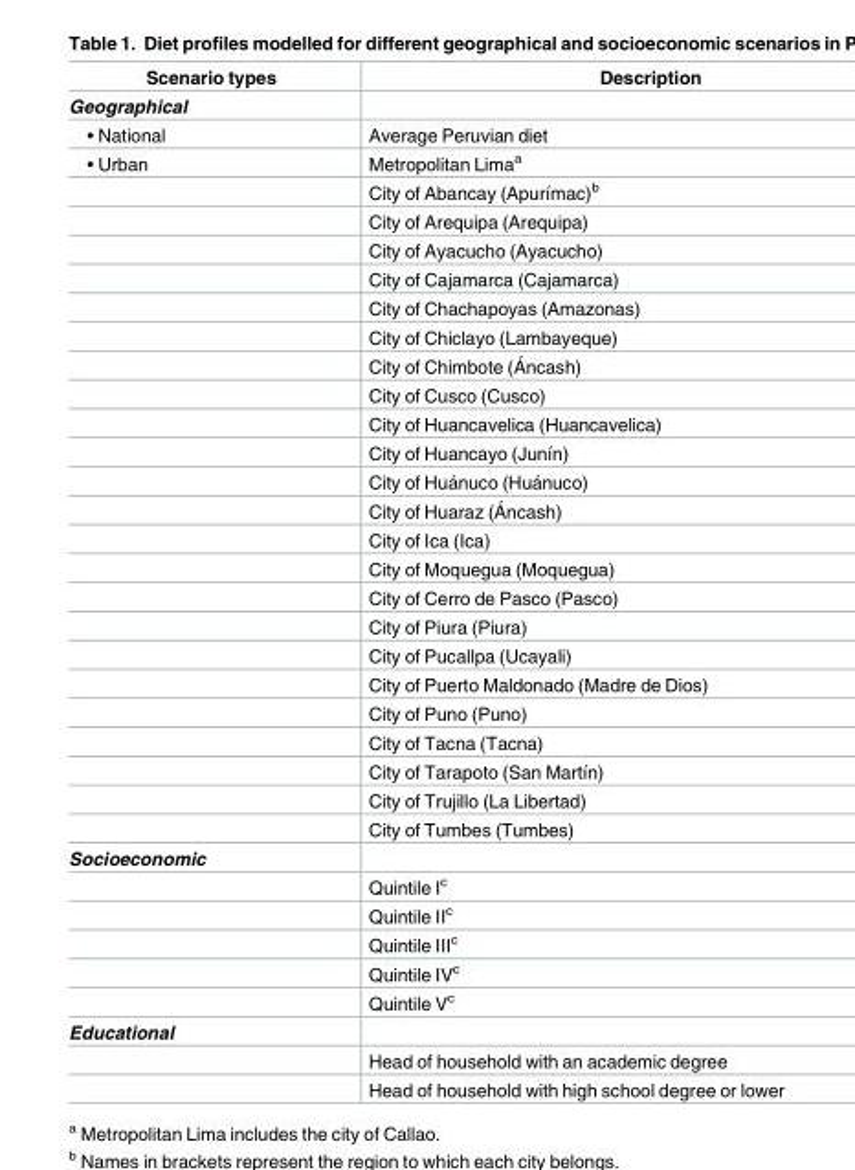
<table><thead><tr><td>Scenario types</td><td>Description</td></tr></thead><tbody><tr><td colspan="2">Geographical</td></tr><tr><td>• National</td><td>Average Peruvian diet</td></tr><tr><td rowspan="24">• Urban</td><td>Metropolitan Lima<sup>a</sup></td></tr><tr><td>City of Abancay (Apurı´mac)b</td></tr><tr><td>City of Arequipa (Arequipa)</td></tr><tr><td>City of Ayacucho (Ayacucho)</td></tr><tr><td>City of Cajamarca (Cajamarca)</td></tr><tr><td>City of Chachapoyas (Amazonas)</td></tr><tr><td>City of Chiclayo (Lambayeque)</td></tr><tr><td>City of Chimbote (A´ ncash)</td></tr><tr><td>City of Cusco (Cusco)</td></tr><tr><td>City of Huancavelica (Huancavelica)</td></tr><tr><td>City of Huancayo (Junı´n)</td></tr><tr><td>City of Hua´nuco (Hua´nuco)</td></tr><tr><td>City of Huaraz (A´ ncash)</td></tr><tr><td>City of Ica (Ica)</td></tr><tr><td>City of Moquegua (Moquegua)</td></tr><tr><td>City of Cerro de Pasco (Pasco)</td></tr><tr><td>City of Piura (Piura)</td></tr><tr><td>City of Pucallpa (Ucayali)</td></tr><tr><td>City of Puerto Maldonado (Madre de Dios)</td></tr><tr><td>City of Puno (Puno)</td></tr><tr><td>City of Tacna (Tacna)</td></tr><tr><td>City of Tarapoto (San Martı´n)</td></tr><tr><td>City of Trujillo (La Libertad)</td></tr><tr><td>City of Tumbes (Tumbes)</td></tr><tr><td colspan="2">Socioeconomic</td></tr><tr><td></td><td>Quintile I<sup>c</sup></td></tr><tr><td></td><td>Quintile II<sup>c</sup></td></tr><tr><td></td><td>Quintile III<sup>c</sup></td></tr><tr><td></td><td>Quintile IV<sup>c</sup></td></tr><tr><td></td><td>Quintile V<sup>c</sup></td></tr><tr><td colspan="2">Educational</td></tr><tr><td></td><td>Head of household with an academic degree</td></tr><tr><td></td><td>Head of household with high school degree or lower</td></tr></tbody></table>